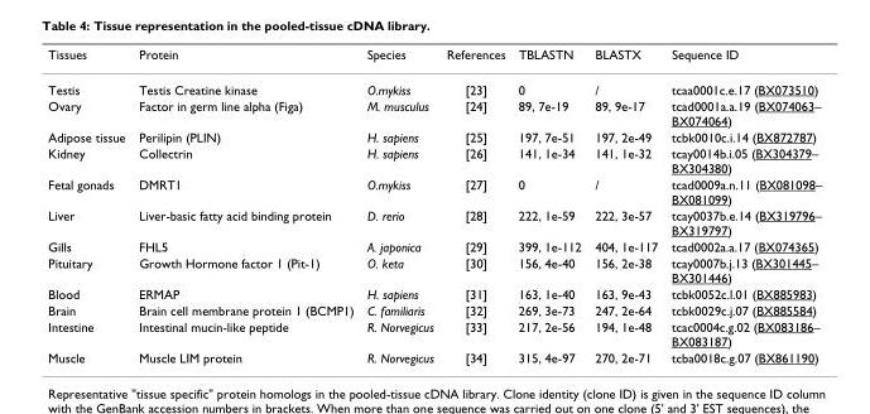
<table><thead><tr><td>Tissues</td><td>Protein</td><td>Species</td><td>References</td><td>TBLASTN</td><td>BLASTX</td><td>Sequence ID</td></tr></thead><tbody><tr><td>Testis</td><td>Testis Creatine kinase</td><td>O.mykiss</td><td>[23]</td><td>0</td><td>/</td><td>tcaa0001c.e.17 (BX073510)</td></tr><tr><td>Ovary</td><td>Factor in germ line alpha (Figa)</td><td>M. musculus</td><td>[24]</td><td>89, 7e-19</td><td>89, 9e-17</td><td>tcad0001a.a.19 (BX074063– BX074064)</td></tr><tr><td>Adipose tissue</td><td>Perilipin (PLIN)</td><td>H. sapiens</td><td>[25]</td><td>197, 7e-51</td><td>197, 2e-49</td><td>tcbk0010c.i.14 (BX872787)</td></tr><tr><td>Kidney</td><td>Collectrin</td><td>H. sapiens</td><td>[26]</td><td>141, 1e-34</td><td>141, 1e-32</td><td>tcay0014b.i.05 (BX304379– BX304380)</td></tr><tr><td>Fetal gonads</td><td>DMRT1</td><td>O.mykiss</td><td>[27]</td><td>0</td><td>/</td><td>tcad0009a.n.11 (BX081098– BX081099)</td></tr><tr><td>Liver</td><td>Liver-basic fatty acid binding protein</td><td>D. rerio</td><td>[28]</td><td>222, 1e-59</td><td>222, 3e-57</td><td>tcay0037b.e.14 (BX319796– BX319797)</td></tr><tr><td>Gills</td><td>FHL5</td><td>A. japonica</td><td>[29]</td><td>399, 1e-112</td><td>404, 1e-117</td><td>tcad0002a.a.17 (BX074365)</td></tr><tr><td>Pituitary</td><td>Growth Hormone factor 1 (Pit-1)</td><td>O. keta</td><td>[30]</td><td>156, 4e-40</td><td>156, 2e-38</td><td>tcay0007b.j.13 (BX301445– BX301446)</td></tr><tr><td>Blood</td><td>ERMAP</td><td>H. sapiens</td><td>[31]</td><td>163, 1e-40</td><td>163, 9e-43</td><td>tcbk0052c.l.01 (BX885983)</td></tr><tr><td>Brain</td><td>Brain cell membrane protein 1 (BCMP1)</td><td>C. familiaris</td><td>[32]</td><td>269, 3e-73</td><td>247, 2e-64</td><td>tcbk0029c.j.07 (BX885584)</td></tr><tr><td>Intestine</td><td>Intestinal mucin-like peptide</td><td>R. Norvegicus</td><td>[33]</td><td>217, 2e-56</td><td>194, 1e-48</td><td>tcac0004c.g.02 (BX083186– BX083187)</td></tr><tr><td>Muscle</td><td>Muscle LIM protein</td><td>R. Norvegicus</td><td>[34]</td><td>315, 4e-97</td><td>270, 2e-71</td><td>tcba0018c.g.07 (BX861190)</td></tr></tbody></table>